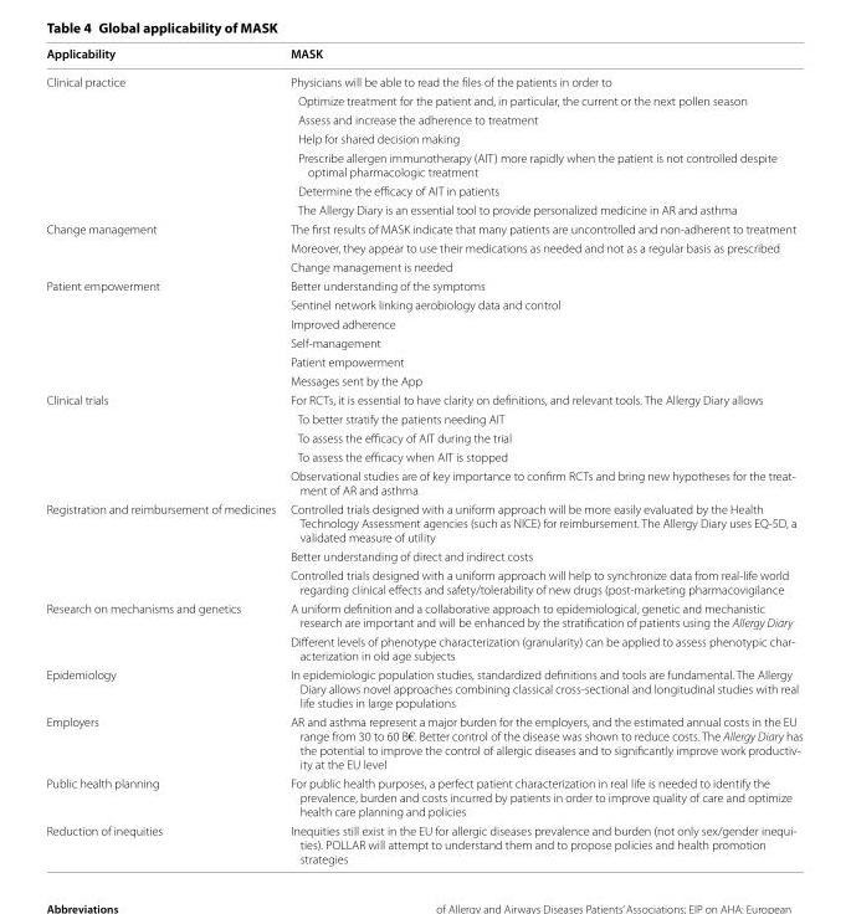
<table><thead><tr><td>Applicability</td><td>MASK</td></tr></thead><tbody><tr><td rowspan="7">Clinical practice</td><td>Physicians will be able to read the files of the patients in order to</td></tr><tr><td>Optimize treatment for the patient and, in particular, the current or the next pollen season</td></tr><tr><td>Assess and increase the adherence to treatment</td></tr><tr><td>Help for shared decision making</td></tr><tr><td>Prescribe allergen immunotherapy (AIT) more rapidly when the patient is not controlled despite optimal pharmacologic treatment</td></tr><tr><td>Determine the efficacy of AIT in patients</td></tr><tr><td>The Allergy Diary is an essential tool to provide personalized medicine in AR and asthma</td></tr><tr><td rowspan="3">Change management</td><td>The first results of MASK indicate that many patients are uncontrolled and non‑adherent to treatment</td></tr><tr><td>Moreover, they appear to use their medications as needed and not as a regular basis as prescribed</td></tr><tr><td>Change management is needed</td></tr><tr><td rowspan="6">Patient empowerment</td><td>Better understanding of the symptoms</td></tr><tr><td>Sentinel network linking aerobiology data and control</td></tr><tr><td>Improved adherence</td></tr><tr><td>Self‑management</td></tr><tr><td>Patient empowerment</td></tr><tr><td>Messages sent by the App</td></tr><tr><td rowspan="5">Clinical trials</td><td>For RCTs, it is essential to have clarity on definitions, and relevant tools. The Allergy Diary allows</td></tr><tr><td>To better stratify the patients needing AIT</td></tr><tr><td>To assess the efficacy of AIT during the trial</td></tr><tr><td>To assess the efficacy when AIT is stopped</td></tr><tr><td>Observational studies are of key importance to confirm RCTs and bring new hypotheses for the treat‑ ment of AR and asthma</td></tr><tr><td rowspan="3">Registration and reimbursement of medicines</td><td>Controlled trials designed with a uniform approach will be more easily evaluated by the Health Technology Assessment agencies (such as NICE) for reimbursement. The Allergy Diary uses EQ‑5D, a validated measure of utility</td></tr><tr><td>Better understanding of direct and indirect costs</td></tr><tr><td>Controlled trials designed with a uniform approach will help to synchronize data from real‑life world regarding clinical effects and safety/tolerability of new drugs (post‑marketing pharmacovigilance</td></tr><tr><td rowspan="2">Research on mechanisms and genetics</td><td>A uniform definition and a collaborative approach to epidemiological, genetic and mechanistic research are important and will be enhanced by the stratification of patients using the Allergy Diary</td></tr><tr><td>Different levels of phenotype characterization (granularity) can be applied to assess phenotypic char‑ acterization in old age subjects</td></tr><tr><td>Epidemiology</td><td>In epidemiologic population studies, standardized definitions and tools are fundamental. The Allergy Diary allows novel approaches combining classical cross‑sectional and longitudinal studies with real life studies in large populations</td></tr><tr><td>Employers</td><td>AR and asthma represent a major burden for the employers, and the estimated annual costs in the EU range from 30 to 60 B€. Better control of the disease was shown to reduce costs. The Allergy Diary has the potential to improve the control of allergic diseases and to significantly improve work productiv‑ ity at the EU level</td></tr><tr><td>Public health planning</td><td>For public health purposes, a perfect patient characterization in real life is needed to identify the prevalence, burden and costs incurred by patients in order to improve quality of care and optimize health care planning and policies</td></tr><tr><td>Reduction of inequities</td><td>Inequities still exist in the EU for allergic diseases prevalence and burden (not only sex/gender inequi‑ ties). POLLAR will attempt to understand them and to propose policies and health promotion strategies</td></tr></tbody></table>